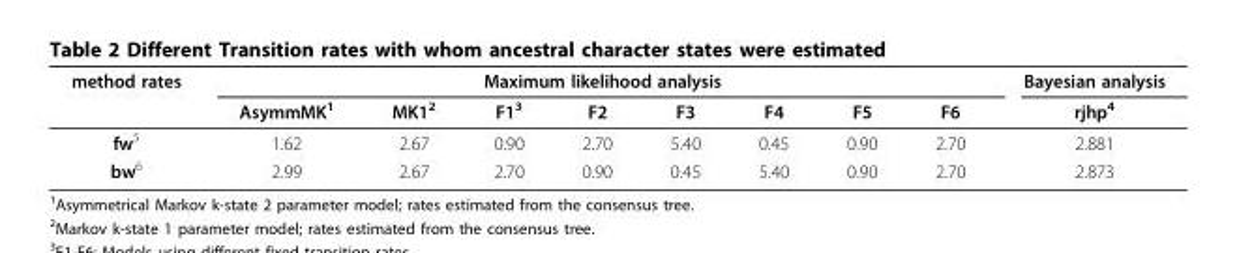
<table><thead><tr><td rowspan="2">method rates</td><td colspan="8">Maximum likelihood analysis</td><td rowspan="2">Bayesian analysis rjhp<sup>4</sup></td></tr><tr><td>AsymmMK<sup>1</sup></td><td>MK1<sup>2</sup></td><td>F1<sup>3</sup></td><td>F2</td><td>F3</td><td>F4</td><td>F5</td><td>F6</td></tr></thead><tbody><tr><td>fw<sup>5</sup></td><td>1.62</td><td>2.67</td><td>0.90</td><td>2.70</td><td>5.40</td><td>0.45</td><td>0.90</td><td>2.70</td><td>2.881</td></tr><tr><td>bw<sup>6</sup></td><td>2.99</td><td>2.67</td><td>2.70</td><td>0.90</td><td>0.45</td><td>5.40</td><td>0.90</td><td>2.70</td><td>2.873</td></tr></tbody></table>